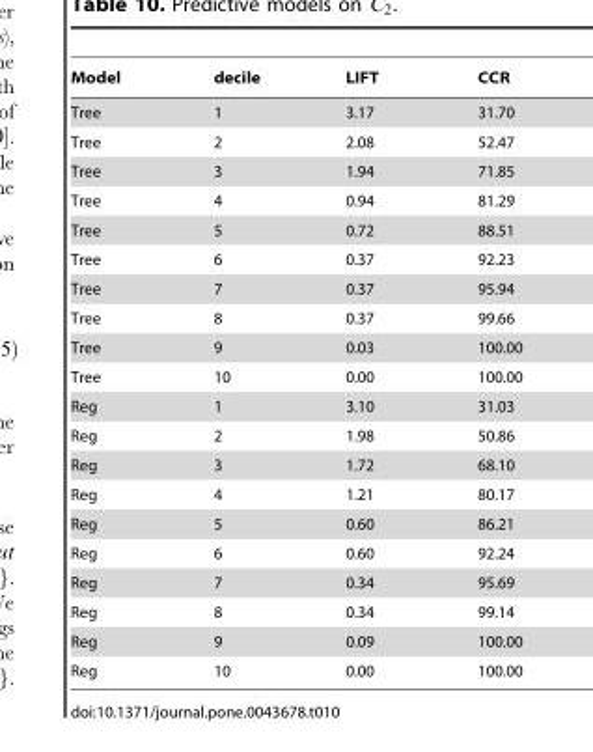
<table><thead><tr><td>Model</td><td>decile</td><td>LIFT</td><td>CCR</td></tr></thead><tbody><tr><td>Tree</td><td>1</td><td>3.17</td><td>31.70</td></tr><tr><td>Tree</td><td>2</td><td>2.08</td><td>52.47</td></tr><tr><td>Tree</td><td>3</td><td>1.94</td><td>71.85</td></tr><tr><td>Tree</td><td>4</td><td>0.94</td><td>81.29</td></tr><tr><td>Tree</td><td>5</td><td>0.72</td><td>88.51</td></tr><tr><td>Tree</td><td>6</td><td>0.37</td><td>92.23</td></tr><tr><td>Tree</td><td>7</td><td>0.37</td><td>95.94</td></tr><tr><td>Tree</td><td>8</td><td>0.37</td><td>99.66</td></tr><tr><td>Tree</td><td>9</td><td>0.03</td><td>100.00</td></tr><tr><td>Tree</td><td>10</td><td>0.00</td><td>100.00</td></tr><tr><td>Reg</td><td>1</td><td>3.10</td><td>31.03</td></tr><tr><td>Reg</td><td>2</td><td>1.98</td><td>50.86</td></tr><tr><td>Reg</td><td>3</td><td>1.72</td><td>68.10</td></tr><tr><td>Reg</td><td>4</td><td>1.21</td><td>80.17</td></tr><tr><td>Reg</td><td>5</td><td>0.60</td><td>86.21</td></tr><tr><td>Reg</td><td>6</td><td>0.60</td><td>92.24</td></tr><tr><td>Reg</td><td>7</td><td>0.34</td><td>95.69</td></tr><tr><td>Reg</td><td>8</td><td>0.34</td><td>99.14</td></tr><tr><td>Reg</td><td>9</td><td>0.09</td><td>100.00</td></tr><tr><td>Reg</td><td>10</td><td>0.00</td><td>100.00</td></tr></tbody></table>